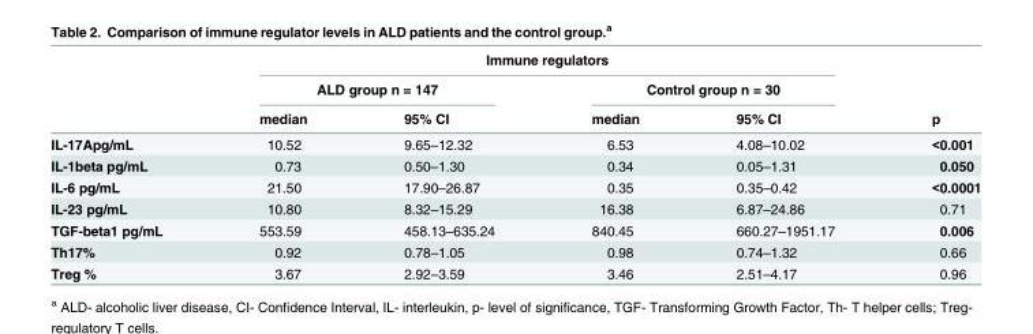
<table><thead><tr><td rowspan="3"></td><td colspan="4">Immune regulators</td><td rowspan="3">p</td></tr><tr><td colspan="2">ALD group n = 147</td><td colspan="2">Control group n = 30</td></tr><tr><td>median</td><td>95% CI</td><td>median</td><td>95% CI</td></tr></thead><tbody><tr><td>IL-17Apg/mL</td><td>10.52</td><td>9.65–12.32</td><td>6.53</td><td>4.08–10.02</td><td>&lt;0.001</td></tr><tr><td>IL-1beta pg/mL</td><td>0.73</td><td>0.50–1.30</td><td>0.34</td><td>0.05–1.31</td><td>0.050</td></tr><tr><td>IL-6 pg/mL</td><td>21.50</td><td>17.90–26.87</td><td>0.35</td><td>0.35–0.42</td><td>&lt;0.0001</td></tr><tr><td>IL-23 pg/mL</td><td>10.80</td><td>8.32–15.29</td><td>16.38</td><td>6.87–24.86</td><td>0.71</td></tr><tr><td>TGF-beta1 pg/mL</td><td>553.59</td><td>458.13–635.24</td><td>840.45</td><td>660.27–1951.17</td><td>0.006</td></tr><tr><td>Th17%</td><td>0.92</td><td>0.78–1.05</td><td>0.98</td><td>0.74–1.32</td><td>0.66</td></tr><tr><td>Treg %</td><td>3.67</td><td>2.92–3.59</td><td>3.46</td><td>2.51–4.17</td><td>0.96</td></tr></tbody></table>